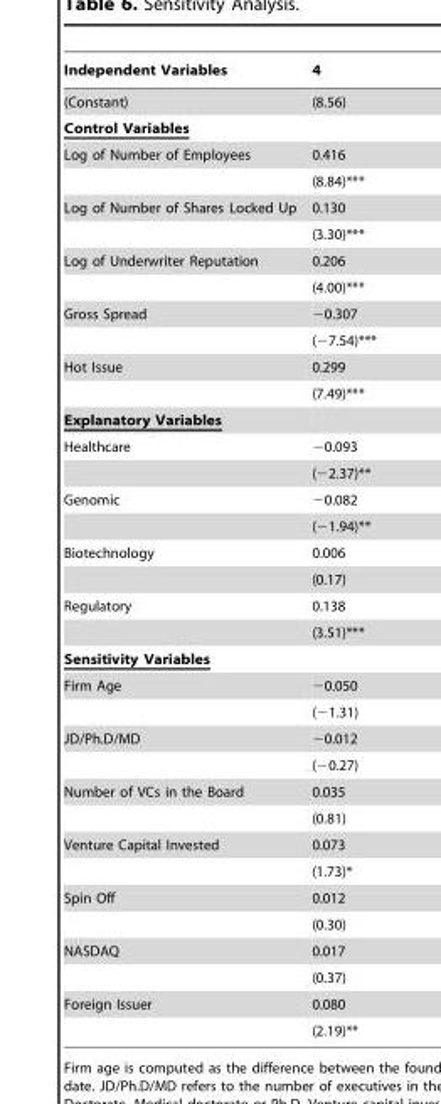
<table><thead><tr><td>Independent Variables</td><td>4</td></tr></thead><tbody><tr><td>(Constant)</td><td>(8.56)</td></tr><tr><td colspan="2">Control Variables</td></tr><tr><td rowspan="2">Log of Number of Employees</td><td>0.416</td></tr><tr><td>(8.84)***</td></tr><tr><td rowspan="2">Log of Number of Shares Locked Up</td><td>0.130</td></tr><tr><td>(3.30)***</td></tr><tr><td rowspan="2">Log of Underwriter Reputation</td><td>0.206</td></tr><tr><td>(4.00)***</td></tr><tr><td rowspan="2">Gross Spread</td><td>−0.307</td></tr><tr><td>(−7.54)***</td></tr><tr><td rowspan="2">Hot Issue</td><td>0.299</td></tr><tr><td>(7.49)***</td></tr><tr><td colspan="2">Explanatory Variables</td></tr><tr><td rowspan="2">Healthcare</td><td>−0.093</td></tr><tr><td>(−2.37)**</td></tr><tr><td rowspan="2">Genomic</td><td>−0.082</td></tr><tr><td>(−1.94)**</td></tr><tr><td rowspan="2">Biotechnology</td><td>0.006</td></tr><tr><td>(0.17)</td></tr><tr><td rowspan="2">Regulatory</td><td>0.138</td></tr><tr><td>(3.51)***</td></tr><tr><td colspan="2">Sensitivity Variables</td></tr><tr><td rowspan="2">Firm Age</td><td>−0.050</td></tr><tr><td>(−1.31)</td></tr><tr><td rowspan="2">JD/Ph.D/MD</td><td>−0.012</td></tr><tr><td>(−0.27)</td></tr><tr><td rowspan="2">Number of VCs in the Board</td><td>0.035</td></tr><tr><td>(0.81)</td></tr><tr><td rowspan="2">Venture Capital Invested</td><td>0.073</td></tr><tr><td>(1.73)*</td></tr><tr><td rowspan="2">Spin Off</td><td>0.012</td></tr><tr><td>(0.30)</td></tr><tr><td rowspan="2">NASDAQ</td><td>0.017</td></tr><tr><td>(0.37)</td></tr><tr><td rowspan="2">Foreign Issuer</td><td>0.080</td></tr><tr><td>(2.19)**</td></tr></tbody></table>